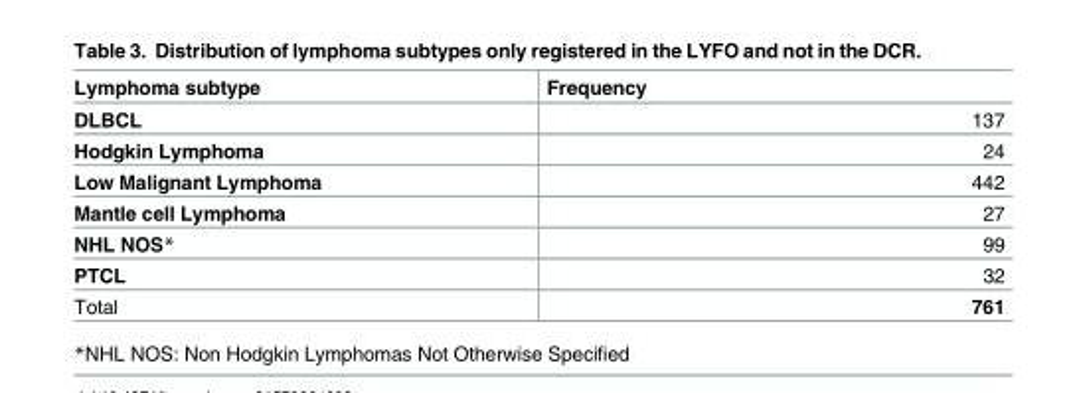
<table><thead><tr><td>Lymphoma subtype</td><td>Frequency</td></tr></thead><tbody><tr><td>DLBCL</td><td>137</td></tr><tr><td>Hodgkin Lymphoma</td><td>24</td></tr><tr><td>Low Malignant Lymphoma</td><td>442</td></tr><tr><td>Mantle cell Lymphoma</td><td>27</td></tr><tr><td>NHL NOS*</td><td>99</td></tr><tr><td>PTCL</td><td>32</td></tr><tr><td>Total</td><td>761</td></tr></tbody></table>